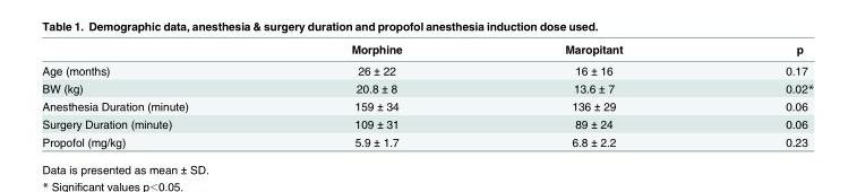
<table><thead><tr><td></td><td>Morphine</td><td>Maropitant</td><td>p</td></tr></thead><tbody><tr><td>Age (months)</td><td>26 ± 22</td><td>16 ± 16</td><td>0.17</td></tr><tr><td>BW (kg)</td><td>20.8 ± 8</td><td>13.6 ± 7</td><td>0.02*</td></tr><tr><td>Anesthesia Duration (minute)</td><td>159 ± 34</td><td>136 ± 29</td><td>0.06</td></tr><tr><td>Surgery Duration (minute)</td><td>109 ± 31</td><td>89 ± 24</td><td>0.06</td></tr><tr><td>Propofol (mg/kg)</td><td>5.9 ± 1.7</td><td>6.8 ± 2.2</td><td>0.23</td></tr></tbody></table>